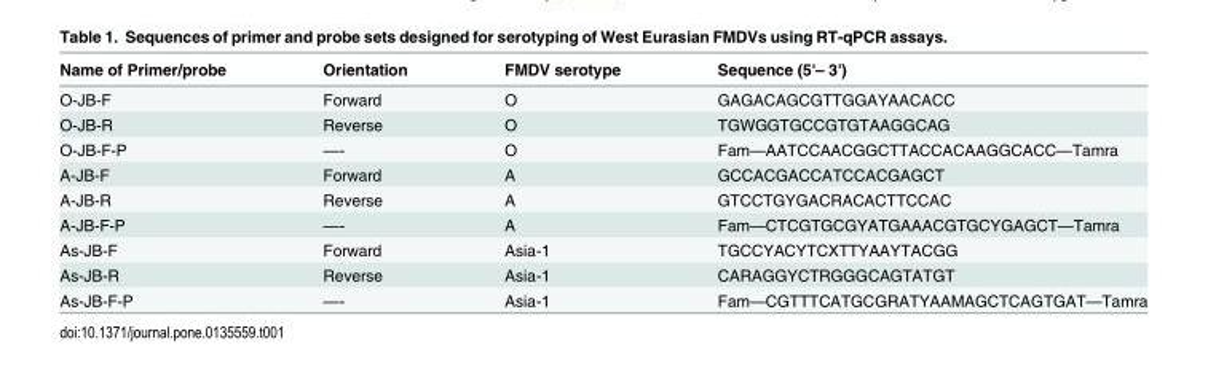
<table><thead><tr><td>Name of Primer/probe</td><td>Orientation</td><td>FMDV serotype</td><td>Sequence (5&#x27;– 3&#x27;)</td></tr></thead><tbody><tr><td>O-JB-F</td><td>Forward</td><td>O</td><td>GAGACAGCGTTGGAYAACACC</td></tr><tr><td>O-JB-R</td><td>Reverse</td><td>O</td><td>TGWGGTGCCGTGTAAGGCAG</td></tr><tr><td>O-JB-F-P</td><td>—-</td><td>O</td><td>Fam—AATCCAACGGCTTACCACAAGGCACC—Tamra</td></tr><tr><td>A-JB-F</td><td>Forward</td><td>A</td><td>GCCACGACCATCCACGAGCT</td></tr><tr><td>A-JB-R</td><td>Reverse</td><td>A</td><td>GTCCTGYGACRACACTTCCAC</td></tr><tr><td>A-JB-F-P</td><td>—-</td><td>A</td><td>Fam—CTCGTGCGYATGAAACGTGCYGAGCT—Tamra</td></tr><tr><td>As-JB-F</td><td>Forward</td><td>Asia-1</td><td>TGCCYACYTCXTTYAAYTACGG</td></tr><tr><td>As-JB-R</td><td>Reverse</td><td>Asia-1</td><td>CARAGGYCTRGGGCAGTATGT</td></tr><tr><td>As-JB-F-P</td><td>—-</td><td>Asia-1</td><td>Fam—CGTTTCATGCGRATYAAMAGCTCAGTGAT—Tamra</td></tr></tbody></table>